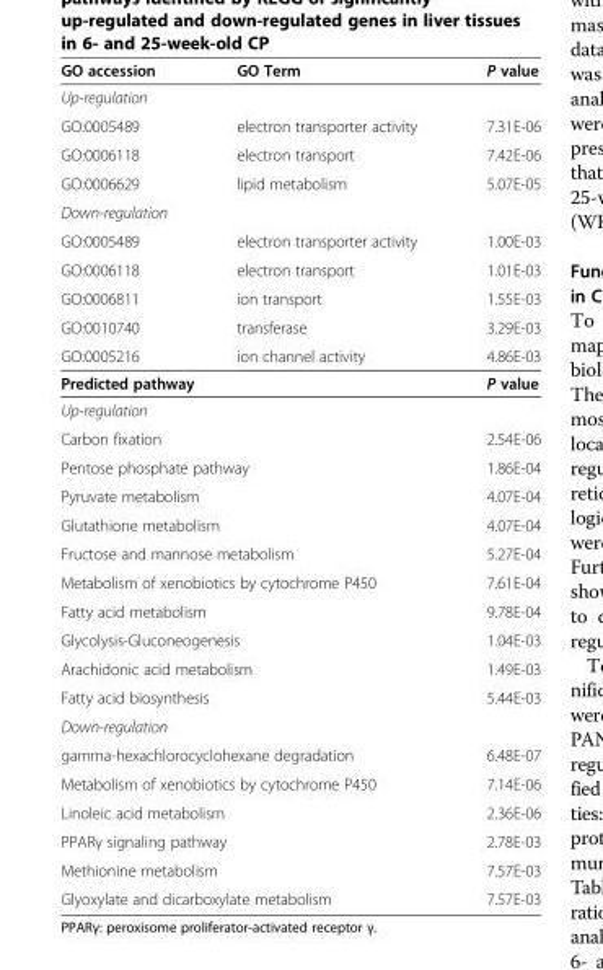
<table><thead><tr><td>GO accession</td><td>GO Term</td><td>P value</td></tr></thead><tbody><tr><td colspan="3">Up-regulation</td></tr><tr><td>GO:0005489</td><td>electron transporter activity</td><td>7.31E-06</td></tr><tr><td>GO:0006118</td><td>electron transport</td><td>7.42E-06</td></tr><tr><td>GO:0006629</td><td>lipid metabolism</td><td>5.07E-05</td></tr><tr><td colspan="3">Down-regulation</td></tr><tr><td>GO:0005489</td><td>electron transporter activity</td><td>1.00E-03</td></tr><tr><td>GO:0006118</td><td>electron transport</td><td>1.01E-03</td></tr><tr><td>GO:0006811</td><td>ion transport</td><td>1.55E-03</td></tr><tr><td>GO:0010740</td><td>transferase</td><td>3.29E-03</td></tr><tr><td>GO:0005216</td><td>ion channel activity</td><td>4.86E-03</td></tr><tr><td colspan="2">Predicted pathway</td><td>P value</td></tr><tr><td colspan="3">Up-regulation</td></tr><tr><td colspan="2">Carbon fixation</td><td>2.54E-06</td></tr><tr><td colspan="2">Pentose phosphate pathway</td><td>1.86E-04</td></tr><tr><td colspan="2">Pyruvate metabolism</td><td>4.07E-04</td></tr><tr><td colspan="2">Glutathione metabolism</td><td>4.07E-04</td></tr><tr><td colspan="2">Fructose and mannose metabolism</td><td>5.27E-04</td></tr><tr><td colspan="2">Metabolism of xenobiotics by cytochrome P450</td><td>7.61E-04</td></tr><tr><td colspan="2">Fatty acid metabolism</td><td>9.78E-04</td></tr><tr><td colspan="2">Glycolysis-Gluconeogenesis</td><td>1.04E-03</td></tr><tr><td colspan="2">Arachidonic acid metabolism</td><td>1.49E-03</td></tr><tr><td colspan="2">Fatty acid biosynthesis</td><td>5.44E-03</td></tr><tr><td colspan="3">Down-regulation</td></tr><tr><td colspan="2">gamma-hexachlorocyclohexane degradation</td><td>6.48E-07</td></tr><tr><td colspan="2">Metabolism of xenobiotics by cytochrome P450</td><td>7.14E-06</td></tr><tr><td colspan="2">Linoleic acid metabolism</td><td>2.36E-06</td></tr><tr><td colspan="2">PPARγ signaling pathway</td><td>2.78E-03</td></tr><tr><td colspan="2">Methionine metabolism</td><td>7.57E-03</td></tr><tr><td colspan="2">Glyoxylate and dicarboxylate metabolism</td><td>7.57E-03</td></tr></tbody></table>